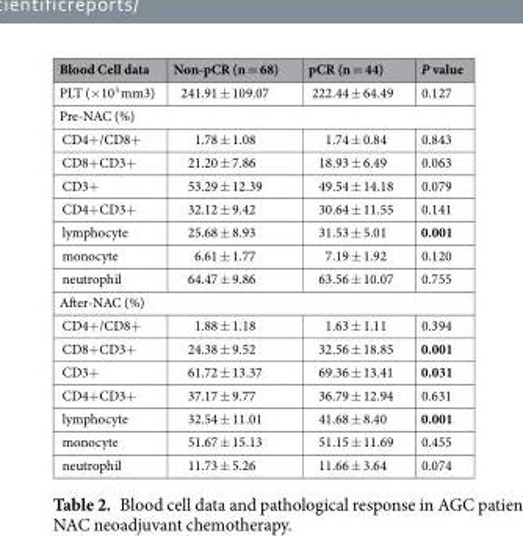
<table><thead><tr><td>Blood Cell data</td><td>Non-pCR (n = 68)</td><td>pCR (n = 44)</td><td>P value</td></tr></thead><tbody><tr><td>PLT (×10<sup>3</sup> mm3)</td><td>241.91 ± 109.07</td><td>222.44 ± 64.49</td><td>0.127</td></tr><tr><td colspan="4">Pre-NAC (%)</td></tr><tr><td>CD4+/CD8+</td><td>1.78 ± 1.08</td><td>1.74 ± 0.84</td><td>0.843</td></tr><tr><td>CD8+CD3+</td><td>21.20 ± 7.86</td><td>18.93 ± 6.49</td><td>0.063</td></tr><tr><td>CD3+</td><td>53.29 ± 12.39</td><td>49.54 ± 14.18</td><td>0.079</td></tr><tr><td>CD4+CD3+</td><td>32.12 ± 9.42</td><td>30.64 ± 11.55</td><td>0.141</td></tr><tr><td>lymphocyte</td><td>25.68 ± 8.93</td><td>31.53 ± 5.01</td><td>0.001</td></tr><tr><td>monocyte</td><td>6.61 ± 1.77</td><td>7.19 ± 1.92</td><td>0.120</td></tr><tr><td>neutrophil</td><td>64.47 ± 9.86</td><td>63.56 ± 10.07</td><td>0.755</td></tr><tr><td colspan="4">After-NAC (%)</td></tr><tr><td>CD4+/CD8+</td><td>1.88 ± 1.18</td><td>1.63 ± 1.11</td><td>0.394</td></tr><tr><td>CD8+CD3+</td><td>24.38 ± 9.52</td><td>32.56 ± 18.85</td><td>0.001</td></tr><tr><td>CD3+</td><td>61.72 ± 13.37</td><td>69.36 ± 13.41</td><td>0.031</td></tr><tr><td>CD4+CD3+</td><td>37.17 ± 9.77</td><td>36.79 ± 12.94</td><td>0.631</td></tr><tr><td>lymphocyte</td><td>32.54 ± 11.01</td><td>41.68 ± 8.40</td><td>0.001</td></tr><tr><td>monocyte</td><td>51.67 ± 15.13</td><td>51.15 ± 11.69</td><td>0.455</td></tr><tr><td>neutrophil</td><td>11.73 ± 5.26</td><td>11.66 ± 3.64</td><td>0.074</td></tr></tbody></table>